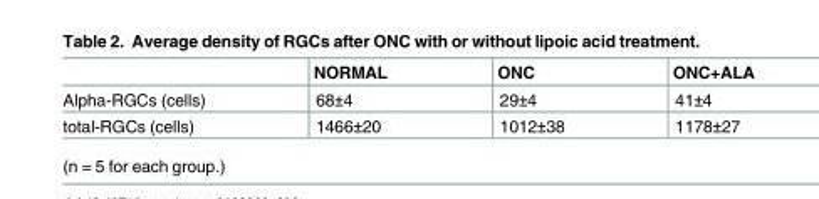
<table><thead><tr><td></td><td>NORMAL</td><td>ONC</td><td>ONC+ALA</td></tr></thead><tbody><tr><td>Alpha-RGCs (cells)</td><td>68±4</td><td>29±4</td><td>41±4</td></tr><tr><td>total-RGCs (cells)</td><td>1466±20</td><td>1012±38</td><td>1178±27</td></tr></tbody></table>